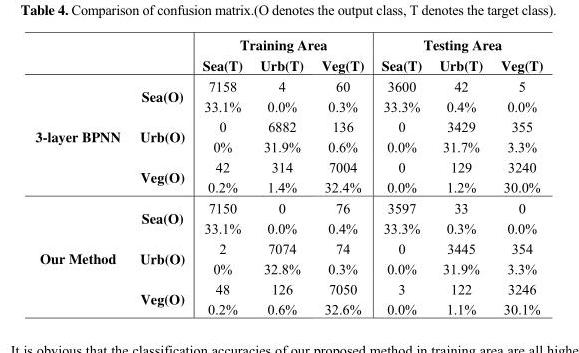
<table><thead><tr><td rowspan="2"></td><td rowspan="2"></td><td colspan="3">Training Area</td><td colspan="3">Testing Area</td></tr><tr><td>Sea(T)</td><td>Urb(T)</td><td>Veg(T)</td><td>Sea(T)</td><td>Urb(T)</td><td>Veg(T)</td></tr></thead><tbody><tr><td rowspan="6">3-layer BPNN</td><td rowspan="2">Sea(O)</td><td>7158</td><td>4</td><td>60</td><td>3600</td><td>42</td><td>5</td></tr><tr><td>33.1%</td><td>0.0%</td><td>0.3%</td><td>33.3%</td><td>0.4%</td><td>0.0%</td></tr><tr><td rowspan="2">Urb(O)</td><td>0</td><td>6882</td><td>136</td><td>0</td><td>3429</td><td>355</td></tr><tr><td>0%</td><td>31.9%</td><td>0.6%</td><td>0.0%</td><td>31.7%</td><td>3.3%</td></tr><tr><td rowspan="2">Veg(O)</td><td>42</td><td>314</td><td>7004</td><td>0</td><td>129</td><td>3240</td></tr><tr><td>0.2%</td><td>1.4%</td><td>32.4%</td><td>0.0%</td><td>1.2%</td><td>30.0%</td></tr><tr><td rowspan="6">Our Method</td><td rowspan="2">Sea(O)</td><td>7150</td><td>0</td><td>76</td><td>3597</td><td>33</td><td>0</td></tr><tr><td>33.1%</td><td>0.0%</td><td>0.4%</td><td>33.3%</td><td>0.3%</td><td>0.0%</td></tr><tr><td rowspan="2">Urb(O)</td><td>2</td><td>7074</td><td>74</td><td>0</td><td>3445</td><td>354</td></tr><tr><td>0%</td><td>32.8%</td><td>0.3%</td><td>0.0%</td><td>31.9%</td><td>3.3%</td></tr><tr><td rowspan="2">Veg(O)</td><td>48</td><td>126</td><td>7050</td><td>3</td><td>122</td><td>3246</td></tr><tr><td>0.2%</td><td>0.6%</td><td>32.6%</td><td>0.0%</td><td>1.1%</td><td>30.1%</td></tr></tbody></table>